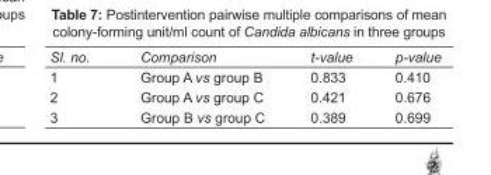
<table><tbody><tr><td>Sl. no.</td><td>Comparison</td><td>t-value</td><td>p-value</td></tr><tr><td>1</td><td>Group A vs group B</td><td>0.833</td><td>0.410</td></tr><tr><td>2</td><td>Group A vs group C</td><td>0.421</td><td>0.676</td></tr><tr><td>3</td><td>Group B vs group C</td><td>0.389</td><td>0.699</td></tr></tbody></table>